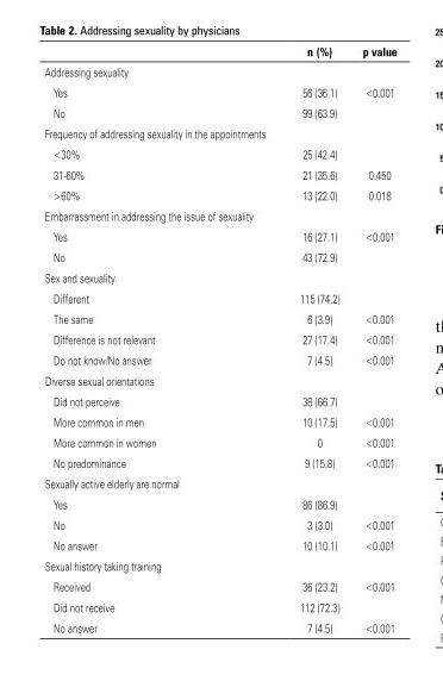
<table><thead><tr><td></td><td>n (%)</td><td>p value</td></tr></thead><tbody><tr><td colspan="3">Addressing sexuality</td></tr><tr><td>Yes</td><td>56 (36.1)</td><td>&lt;0.001</td></tr><tr><td>No</td><td>99 (63.9)</td><td></td></tr><tr><td colspan="3">Frequency of addressing sexuality in the appointments</td></tr><tr><td>&lt;30%</td><td>25 (42.4)</td><td></td></tr><tr><td>31-60%</td><td>21 (35.6)</td><td>0.450</td></tr><tr><td>&gt;60%</td><td>13 (22.0)</td><td>0.018</td></tr><tr><td colspan="3">Embarrassment in addressing the issue of sexuality</td></tr><tr><td>Yes</td><td>16 (27.1)</td><td>&lt;0.001</td></tr><tr><td>No</td><td>43 (72.9)</td><td></td></tr><tr><td colspan="3">Sex and sexuality</td></tr><tr><td>Different</td><td>115 (74.2)</td><td></td></tr><tr><td>The same</td><td>6 (3.9)</td><td>&lt;0.001</td></tr><tr><td>Difference is not relevant</td><td>27 (17.4)</td><td>&lt;0.001</td></tr><tr><td>Do not know/No answer</td><td>7 (4.5)</td><td>&lt;0.001</td></tr><tr><td colspan="3">Diverse sexual orientations</td></tr><tr><td>Did not perceive</td><td>38 (66.7)</td><td></td></tr><tr><td>More common in men</td><td>10 (17.5)</td><td>&lt;0.001</td></tr><tr><td>More common in women</td><td>0</td><td>&lt;0.001</td></tr><tr><td>No predominance</td><td>9 (15.8)</td><td>&lt;0.001</td></tr><tr><td colspan="3">Sexually active elderly are normal</td></tr><tr><td>Yes</td><td>86 (86.9)</td><td></td></tr><tr><td>No</td><td>3 (3.0)</td><td>&lt;0.001</td></tr><tr><td>No answer</td><td>10 (10.1)</td><td>&lt;0.001</td></tr><tr><td colspan="3">Sexual history taking training</td></tr><tr><td>Received</td><td>36 (23.2)</td><td>&lt;0.001</td></tr><tr><td>Did not receive</td><td>112 (72.3)</td><td></td></tr><tr><td>No answer</td><td>7 (4.5)</td><td>&lt;0.001</td></tr></tbody></table>